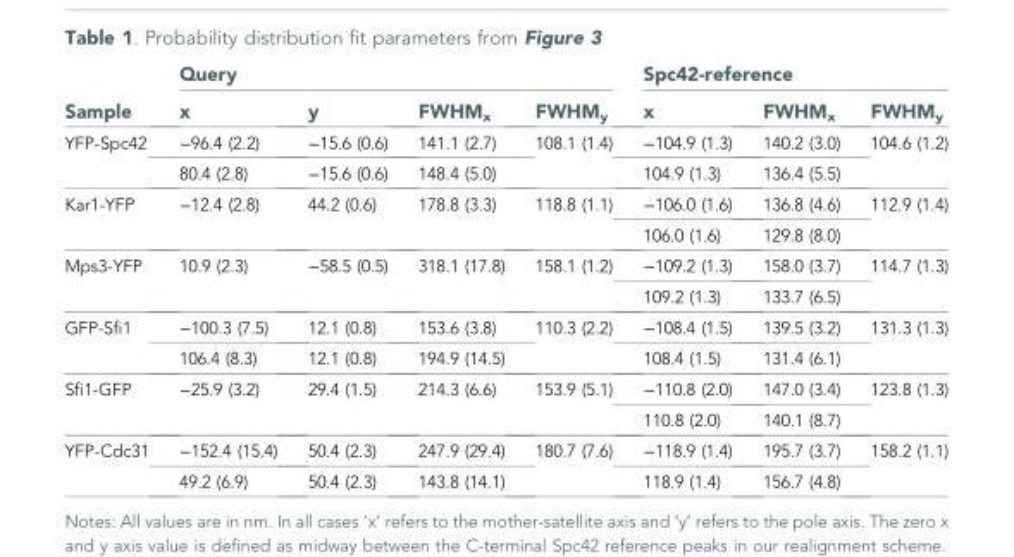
<table><thead><tr><td rowspan="2">Sample</td><td colspan="4">Query</td><td colspan="3">Spc42-reference</td></tr><tr><td>x</td><td>y</td><td>FWHM<sub>x</sub></td><td>FWHM<sub>y</sub></td><td>x</td><td>FWHM<sub>x</sub></td><td>FWHM<sub>y</sub></td></tr></thead><tbody><tr><td rowspan="2">YFP-Spc42</td><td>−96.4 (2.2)</td><td>−15.6 (0.6)</td><td>141.1 (2.7)</td><td rowspan="2">108.1 (1.4)</td><td>−104.9 (1.3)</td><td>140.2 (3.0)</td><td rowspan="2">104.6 (1.2)</td></tr><tr><td>80.4 (2.8)</td><td>−15.6 (0.6)</td><td>148.4 (5.0)</td><td>104.9 (1.3)</td><td>136.4 (5.5)</td></tr><tr><td rowspan="2">Kar1-YFP</td><td rowspan="2">−12.4 (2.8)</td><td rowspan="2">44.2 (0.6)</td><td rowspan="2">178.8 (3.3)</td><td rowspan="2">118.8 (1.1)</td><td>−106.0 (1.6)</td><td>136.8 (4.6)</td><td rowspan="2">112.9 (1.4)</td></tr><tr><td>106.0 (1.6)</td><td>129.8 (8.0)</td></tr><tr><td rowspan="2">Mps3-YFP</td><td rowspan="2">10.9 (2.3)</td><td rowspan="2">−58.5 (0.5)</td><td rowspan="2">318.1 (17.8)</td><td rowspan="2">158.1 (1.2)</td><td>−109.2 (1.3)</td><td>158.0 (3.7)</td><td rowspan="2">114.7 (1.3)</td></tr><tr><td>109.2 (1.3)</td><td>133.7 (6.5)</td></tr><tr><td rowspan="2">GFP-Sfi1</td><td>−100.3 (7.5)</td><td>12.1 (0.8)</td><td>153.6 (3.8)</td><td rowspan="2">110.3 (2.2)</td><td>−108.4 (1.5)</td><td>139.5 (3.2)</td><td rowspan="2">131.3 (1.3)</td></tr><tr><td>106.4 (8.3)</td><td>12.1 (0.8)</td><td>194.9 (14.5)</td><td>108.4 (1.5)</td><td>131.4 (6.1)</td></tr><tr><td rowspan="2">Sfi1-GFP</td><td rowspan="2">−25.9 (3.2)</td><td rowspan="2">29.4 (1.5)</td><td rowspan="2">214.3 (6.6)</td><td rowspan="2">153.9 (5.1)</td><td>−110.8 (2.0)</td><td>147.0 (3.4)</td><td rowspan="2">123.8 (1.3)</td></tr><tr><td>110.8 (2.0)</td><td>140.1 (8.7)</td></tr><tr><td rowspan="2">YFP-Cdc31</td><td>−152.4 (15.4)</td><td>50.4 (2.3)</td><td>247.9 (29.4)</td><td rowspan="2">180.7 (7.6)</td><td>−118.9 (1.4)</td><td>195.7 (3.7)</td><td rowspan="2">158.2 (1.1)</td></tr><tr><td>49.2 (6.9)</td><td>50.4 (2.3)</td><td>143.8 (14.1)</td><td>118.9 (1.4)</td><td>156.7 (4.8)</td></tr></tbody></table>